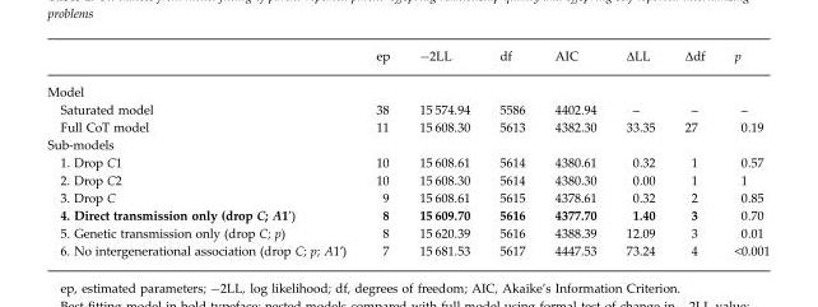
<table><thead><tr><td></td><td>ep</td><td>−2LL</td><td>df</td><td>AIC</td><td>ΔLL</td><td>Δdf</td><td>p</td></tr></thead><tbody><tr><td colspan="8">Model</td></tr><tr><td>Saturated model</td><td>38</td><td>15 574.94</td><td>5586</td><td>4402.94</td><td>–</td><td>–</td><td>–</td></tr><tr><td>Full CoT model</td><td>11</td><td>15 608.30</td><td>5613</td><td>4382.30</td><td>33.35</td><td>27</td><td>0.19</td></tr><tr><td colspan="8">Sub-models</td></tr><tr><td>1. Drop C1</td><td>10</td><td>15 608.61</td><td>5614</td><td>4380.61</td><td>0.32</td><td>1</td><td>0.57</td></tr><tr><td>2. Drop C2</td><td>10</td><td>15 608.30</td><td>5614</td><td>4380.30</td><td>0.00</td><td>1</td><td>1</td></tr><tr><td>3. Drop C</td><td>9</td><td>15 608.61</td><td>5615</td><td>4378.61</td><td>0.32</td><td>2</td><td>0.85</td></tr><tr><td>4. Direct transmission only (drop C; A1′)</td><td>8</td><td>15 609.70</td><td>5616</td><td>4377.70</td><td>1.40</td><td>3</td><td>0.70</td></tr><tr><td>5. Genetic transmission only (drop C; p)</td><td>8</td><td>15 620.39</td><td>5616</td><td>4388.39</td><td>12.09</td><td>3</td><td>0.01</td></tr><tr><td>6. No intergenerational association (drop C; p; A1′)</td><td>7</td><td>15 681.53</td><td>5617</td><td>4447.53</td><td>73.24</td><td>4</td><td>&lt;0.001</td></tr></tbody></table>